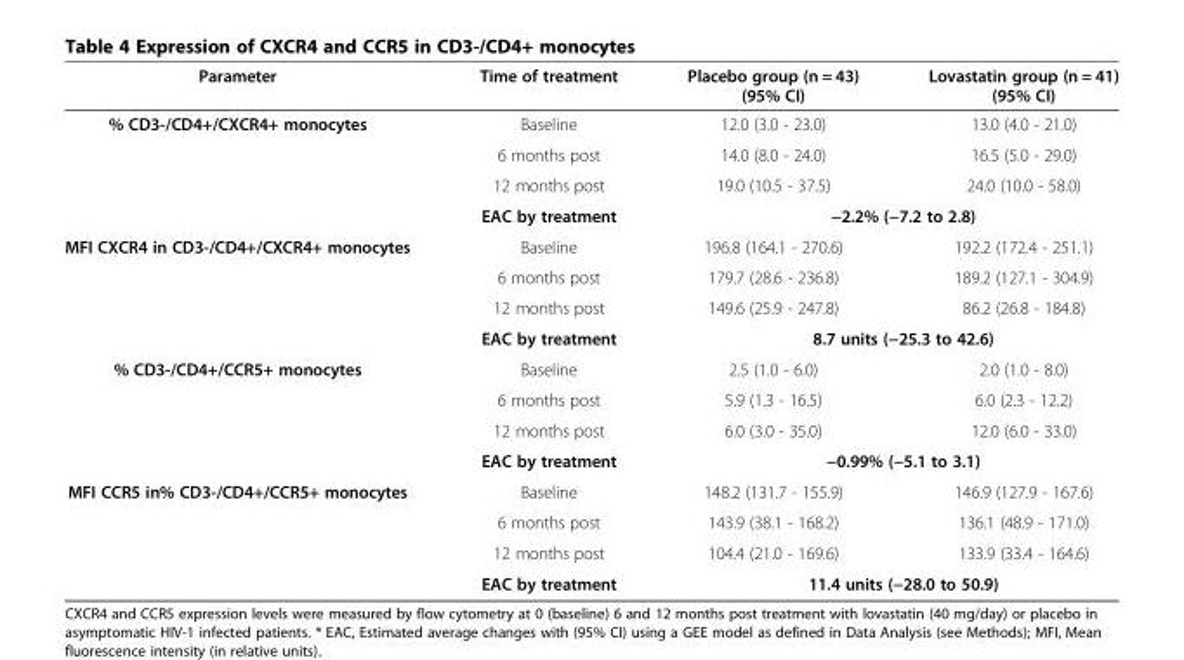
<table><thead><tr><td>Parameter</td><td>Time of treatment</td><td>Placebo group (n = 43) (95% CI)</td><td>Lovastatin group (n = 41) (95% CI)</td></tr></thead><tbody><tr><td rowspan="4">% CD3-/CD4+/CXCR4+ monocytes</td><td>Baseline</td><td>12.0 (3.0 - 23.0)</td><td>13.0 (4.0 - 21.0)</td></tr><tr><td>6 months post</td><td>14.0 (8.0 - 24.0)</td><td>16.5 (5.0 - 29.0)</td></tr><tr><td>12 months post</td><td>19.0 (10.5 - 37.5)</td><td>24.0 (10.0 - 58.0)</td></tr><tr><td>EAC by treatment</td><td colspan="2">−2.2% (−7.2 to 2.8)</td></tr><tr><td rowspan="4">MFI CXCR4 in CD3-/CD4+/CXCR4+ monocytes</td><td>Baseline</td><td>196.8 (164.1 - 270.6)</td><td>192.2 (172.4 - 251.1)</td></tr><tr><td>6 months post</td><td>179.7 (28.6 - 236.8)</td><td>189.2 (127.1 - 304.9)</td></tr><tr><td>12 months post</td><td>149.6 (25.9 - 247.8)</td><td>86.2 (26.8 - 184.8)</td></tr><tr><td>EAC by treatment</td><td colspan="2">8.7 units (−25.3 to 42.6)</td></tr><tr><td rowspan="4">% CD3-/CD4+/CCR5+ monocytes</td><td>Baseline</td><td>2.5 (1.0 - 6.0)</td><td>2.0 (1.0 - 8.0)</td></tr><tr><td>6 months post</td><td>5.9 (1.3 - 16.5)</td><td>6.0 (2.3 - 12.2)</td></tr><tr><td>12 months post</td><td>6.0 (3.0 - 35.0)</td><td>12.0 (6.0 - 33.0)</td></tr><tr><td>EAC by treatment</td><td colspan="2">−0.99% (−5.1 to 3.1)</td></tr><tr><td rowspan="4">MFI CCR5 in% CD3-/CD4+/CCR5+ monocytes</td><td>Baseline</td><td>148.2 (131.7 - 155.9)</td><td>146.9 (127.9 - 167.6)</td></tr><tr><td>6 months post</td><td>143.9 (38.1 - 168.2)</td><td>136.1 (48.9 - 171.0)</td></tr><tr><td>12 months post</td><td>104.4 (21.0 - 169.6)</td><td>133.9 (33.4 - 164.6)</td></tr><tr><td>EAC by treatment</td><td colspan="2">11.4 units (−28.0 to 50.9)</td></tr></tbody></table>